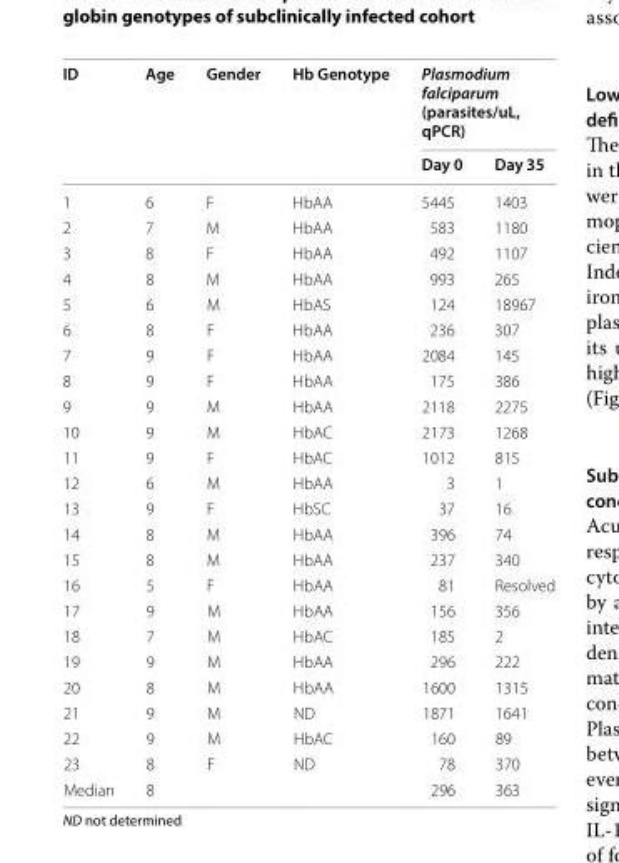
<table><thead><tr><td rowspan="2">ID</td><td rowspan="2">Age</td><td rowspan="2">Gender</td><td rowspan="2">Hb Genotype</td><td colspan="2">Plasmodium falciparum (parasites/uL, qPCR)</td></tr><tr><td>Day 0</td><td>Day 35</td></tr></thead><tbody><tr><td>1</td><td>6</td><td>F</td><td>HbAA</td><td>5445</td><td>1403</td></tr><tr><td>2</td><td>7</td><td>M</td><td>HbAA</td><td>583</td><td>1180</td></tr><tr><td>3</td><td>8</td><td>F</td><td>HbAA</td><td>492</td><td>1107</td></tr><tr><td>4</td><td>8</td><td>M</td><td>HbAA</td><td>993</td><td>265</td></tr><tr><td>5</td><td>6</td><td>M</td><td>HbAS</td><td>124</td><td>18967</td></tr><tr><td>6</td><td>8</td><td>F</td><td>HbAA</td><td>236</td><td>307</td></tr><tr><td>7</td><td>9</td><td>F</td><td>HbAA</td><td>2084</td><td>145</td></tr><tr><td>8</td><td>9</td><td>F</td><td>HbAA</td><td>175</td><td>386</td></tr><tr><td>9</td><td>9</td><td>M</td><td>HbAA</td><td>2118</td><td>2275</td></tr><tr><td>10</td><td>9</td><td>M</td><td>HbAC</td><td>2173</td><td>1268</td></tr><tr><td>11</td><td>9</td><td>F</td><td>HbAC</td><td>1012</td><td>815</td></tr><tr><td>12</td><td>6</td><td>M</td><td>HbAA</td><td>3</td><td>1</td></tr><tr><td>13</td><td>9</td><td>F</td><td>HbSC</td><td>37</td><td>16</td></tr><tr><td>14</td><td>8</td><td>M</td><td>HbAA</td><td>396</td><td>74</td></tr><tr><td>15</td><td>8</td><td>M</td><td>HbAA</td><td>237</td><td>340</td></tr><tr><td>16</td><td>5</td><td>F</td><td>HbAA</td><td>81</td><td>Resolved</td></tr><tr><td>17</td><td>9</td><td>M</td><td>HbAA</td><td>156</td><td>356</td></tr><tr><td>18</td><td>7</td><td>M</td><td>HbAC</td><td>185</td><td>2</td></tr><tr><td>19</td><td>9</td><td>M</td><td>HbAA</td><td>296</td><td>222</td></tr><tr><td>20</td><td>8</td><td>M</td><td>HbAA</td><td>1600</td><td>1315</td></tr><tr><td>21</td><td>9</td><td>M</td><td>ND</td><td>1871</td><td>1641</td></tr><tr><td>22</td><td>9</td><td>M</td><td>HbAC</td><td>160</td><td>89</td></tr><tr><td>23</td><td>8</td><td>F</td><td>ND</td><td>78</td><td>370</td></tr><tr><td>Median</td><td>8</td><td></td><td></td><td>296</td><td>363</td></tr></tbody></table>